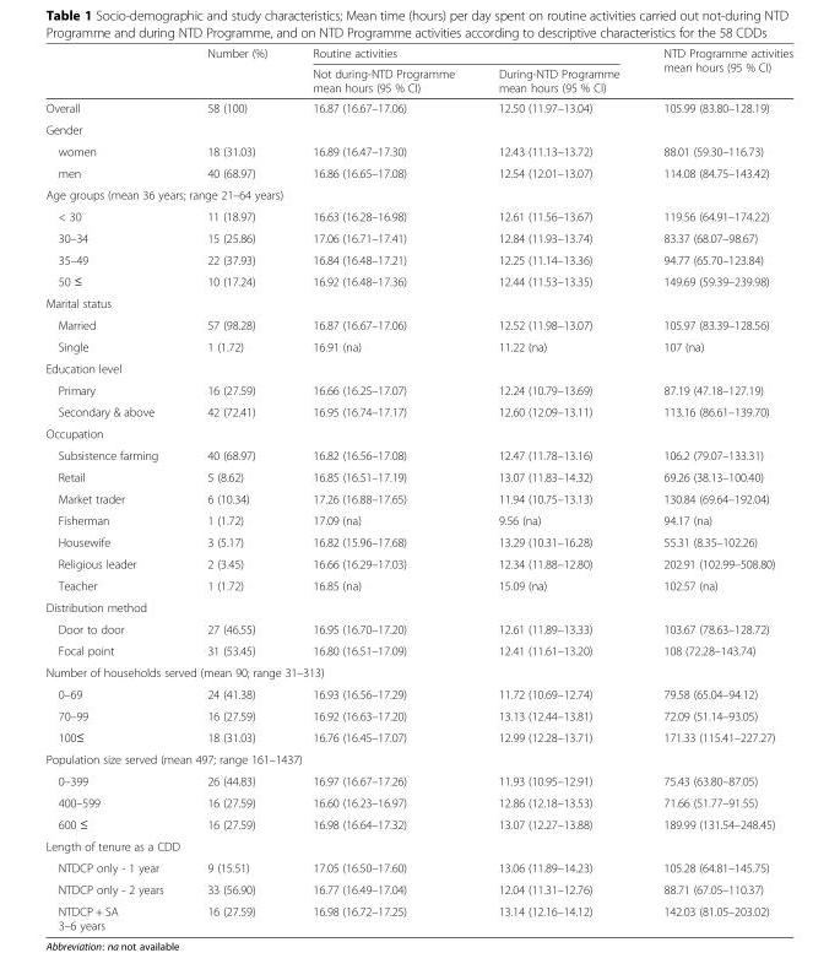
<table><thead><tr><td rowspan="2"></td><td rowspan="2">Number (%)</td><td colspan="2">Routine activities</td><td rowspan="2">NTD Programme activities mean hours (95 % CI)</td></tr><tr><td>Not during-NTD Programme mean hours (95 % CI)</td><td>During-NTD Programme mean hours (95 % CI)</td></tr></thead><tbody><tr><td>Overall</td><td>58 (100)</td><td>16.87 (16.67–17.06)</td><td>12.50 (11.97–13.04)</td><td>105.99 (83.80–128.19)</td></tr><tr><td colspan="5">Gender</td></tr><tr><td>women</td><td>18 (31.03)</td><td>16.89 (16.47–17.30)</td><td>12.43 (11.13–13.72)</td><td>88.01 (59.30–116.73)</td></tr><tr><td>men</td><td>40 (68.97)</td><td>16.86 (16.65–17.08)</td><td>12.54 (12.01–13.07)</td><td>114.08 (84.75–143.42)</td></tr><tr><td colspan="5">Age groups (mean 36 years; range 21–64 years)</td></tr><tr><td>&lt; 30</td><td>11 (18.97)</td><td>16.63 (16.28–16.98)</td><td>12.61 (11.56–13.67)</td><td>119.56 (64.91–174.22)</td></tr><tr><td>30–34</td><td>15 (25.86)</td><td>17.06 (16.71–17.41)</td><td>12.84 (11.93–13.74)</td><td>83.37 (68.07–98.67)</td></tr><tr><td>35–49</td><td>22 (37.93)</td><td>16.84 (16.48–17.21)</td><td>12.25 (11.14–13.36)</td><td>94.77 (65.70–123.84)</td></tr><tr><td>50 ≤</td><td>10 (17.24)</td><td>16.92 (16.48–17.36)</td><td>12.44 (11.53–13.35)</td><td>149.69 (59.39–239.98)</td></tr><tr><td colspan="5">Marital status</td></tr><tr><td>Married</td><td>57 (98.28)</td><td>16.87 (16.67–17.06)</td><td>12.52 (11.98–13.07)</td><td>105.97 (83.39–128.56)</td></tr><tr><td>Single</td><td>1 (1.72)</td><td>16.91 (na)</td><td>11.22 (na)</td><td>107 (na)</td></tr><tr><td colspan="5">Education level</td></tr><tr><td>Primary</td><td>16 (27.59)</td><td>16.66 (16.25–17.07)</td><td>12.24 (10.79–13.69)</td><td>87.19 (47.18–127.19)</td></tr><tr><td>Secondary &amp; above</td><td>42 (72.41)</td><td>16.95 (16.74–17.17)</td><td>12.60 (12.09–13.11)</td><td>113.16 (86.61–139.70)</td></tr><tr><td colspan="5">Occupation</td></tr><tr><td>Subsistence farming</td><td>40 (68.97)</td><td>16.82 (16.56–17.08)</td><td>12.47 (11.78–13.16)</td><td>106.2 (79.07–133.31)</td></tr><tr><td>Retail</td><td>5 (8.62)</td><td>16.85 (16.51–17.19)</td><td>13.07 (11.83–14.32)</td><td>69.26 (38.13–100.40)</td></tr><tr><td>Market trader</td><td>6 (10.34)</td><td>17.26 (16.88–17.65)</td><td>11.94 (10.75–13.13)</td><td>130.84 (69.64–192.04)</td></tr><tr><td>Fisherman</td><td>1 (1.72)</td><td>17.09 (na)</td><td>9.56 (na)</td><td>94.17 (na)</td></tr><tr><td>Housewife</td><td>3 (5.17)</td><td>16.82 (15.96–17.68)</td><td>13.29 (10.31–16.28)</td><td>55.31 (8.35–102.26)</td></tr><tr><td>Religious leader</td><td>2 (3.45)</td><td>16.66 (16.29–17.03)</td><td>12.34 (11.88–12.80)</td><td>202.91 (102.99–508.80)</td></tr><tr><td>Teacher</td><td>1 (1.72)</td><td>16.85 (na)</td><td>15.09 (na)</td><td>102.57 (na)</td></tr><tr><td colspan="5">Distribution method</td></tr><tr><td>Door to door</td><td>27 (46.55)</td><td>16.95 (16.70–17.20)</td><td>12.61 (11.89–13.33)</td><td>103.67 (78.63–128.72)</td></tr><tr><td>Focal point</td><td>31 (53.45)</td><td>16.80 (16.51–17.09)</td><td>12.41 (11.61–13.20)</td><td>108 (72.28–143.74)</td></tr><tr><td colspan="5">Number of households served (mean 90; range 31–313)</td></tr><tr><td>0–69</td><td>24 (41.38)</td><td>16.93 (16.56–17.29)</td><td>11.72 (10.69–12.74)</td><td>79.58 (65.04–94.12)</td></tr><tr><td>70–99</td><td>16 (27.59)</td><td>16.92 (16.63–17.20)</td><td>13.13 (12.44–13.81)</td><td>72.09 (51.14–93.05)</td></tr><tr><td>100≤</td><td>18 (31.03)</td><td>16.76 (16.45–17.07)</td><td>12.99 (12.28–13.71)</td><td>171.33 (115.41–227.27)</td></tr><tr><td colspan="5">Population size served (mean 497; range 161–1437)</td></tr><tr><td>0–399</td><td>26 (44.83)</td><td>16.97 (16.67–17.26)</td><td>11.93 (10.95–12.91)</td><td>75.43 (63.80–87.05)</td></tr><tr><td>400–599</td><td>16 (27.59)</td><td>16.60 (16.23–16.97)</td><td>12.86 (12.18–13.53)</td><td>71.66 (51.77–91.55)</td></tr><tr><td>600 ≤</td><td>16 (27.59)</td><td>16.98 (16.64–17.32)</td><td>13.07 (12.27–13.88)</td><td>189.99 (131.54–248.45)</td></tr><tr><td colspan="5">Length of tenure as a CDD</td></tr><tr><td>NTDCP only - 1 year</td><td>9 (15.51)</td><td>17.05 (16.50–17.60)</td><td>13.06 (11.89–14.23)</td><td>105.28 (64.81–145.75)</td></tr><tr><td>NTDCP only - 2 years</td><td>33 (56.90)</td><td>16.77 (16.49–17.04)</td><td>12.04 (11.31–12.76)</td><td>88.71 (67.05–110.37)</td></tr><tr><td>NTDCP + SA 3–6 years</td><td>16 (27.59)</td><td>16.98 (16.72–17.25)</td><td>13.14 (12.16–14.12)</td><td>142.03 (81.05–203.02)</td></tr></tbody></table>